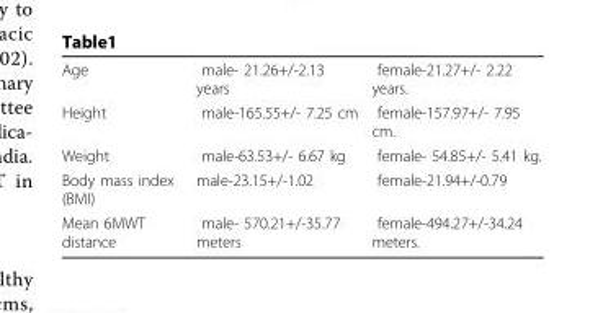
<table><tbody><tr><td>Age</td><td>male- 21.26+/-2.13 years</td><td>female-21.27+/- 2.22 years.</td></tr><tr><td>Height</td><td>male-165.55+/- 7.25 cm</td><td>female-157.97+/- 7.95 cm.</td></tr><tr><td>Weight</td><td>male-63.53+/- 6.67 kg</td><td>female- 54.85+/- 5.41 kg.</td></tr><tr><td>Body mass index (BMI)</td><td>male-23.15+/-1.02</td><td>female-21.94+/-0.79</td></tr><tr><td>Mean 6MWT distance</td><td>male- 570.21+/-35.77 meters</td><td>female-494.27+/-34.24 meters.</td></tr></tbody></table>